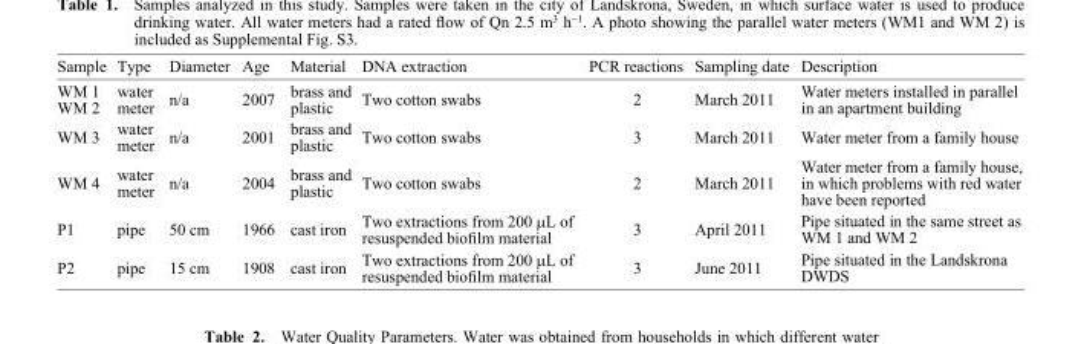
<table><thead><tr><td>Sample</td><td>Type</td><td>Diameter</td><td>Age</td><td>Material</td><td>DNA extraction</td><td>PCR reactions</td><td>Sampling date</td><td>Description</td></tr></thead><tbody><tr><td>WM 1 WM 2</td><td>water meter</td><td>n/a</td><td>2007</td><td>brass and plastic</td><td>Two cotton swabs</td><td>2</td><td>March 2011</td><td>Water meters installed in parallel in an apartment building</td></tr><tr><td>WM 3</td><td>water meter</td><td>n/a</td><td>2001</td><td>brass and plastic</td><td>Two cotton swabs</td><td>3</td><td>March 2011</td><td>Water meter from a family house</td></tr><tr><td>WM 4</td><td>water meter</td><td>n/a</td><td>2004</td><td>brass and plastic</td><td>Two cotton swabs</td><td>2</td><td>March 2011</td><td>Water meter from a family house, in which problems with red water have been reported</td></tr><tr><td>P1</td><td>pipe</td><td>50 cm</td><td>1966</td><td>cast iron</td><td>Two extractions from 200 µL of resuspended biofilm material</td><td>3</td><td>April 2011</td><td>Pipe situated in the same street as WM 1 and WM 2</td></tr><tr><td>P2</td><td>pipe</td><td>15 cm</td><td>1908</td><td>cast iron</td><td>Two extractions from 200 µL of resuspended biofilm material</td><td>3</td><td>June 2011</td><td>Pipe situated in the Landskrona DWDS</td></tr></tbody></table>